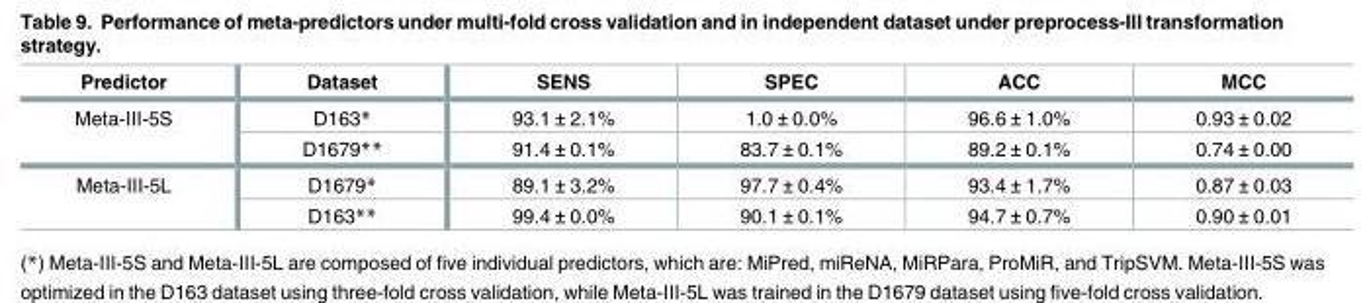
<table><thead><tr><td>Predictor</td><td>Dataset</td><td>SENS</td><td>SPEC</td><td>ACC</td><td>MCC</td></tr></thead><tbody><tr><td rowspan="2">Meta-III-5S</td><td>D163*</td><td>93.1 ± 2.1%</td><td>1.0 ± 0.0%</td><td>96.6 ± 1.0%</td><td>0.93 ± 0.02</td></tr><tr><td>D1679**</td><td>91.4 ± 0.1%</td><td>83.7 ± 0.1%</td><td>89.2 ± 0.1%</td><td>0.74 ± 0.00</td></tr><tr><td rowspan="2">Meta-III-5L</td><td>D1679*</td><td>89.1 ± 3.2%</td><td>97.7 ± 0.4%</td><td>93.4 ± 1.7%</td><td>0.87 ± 0.03</td></tr><tr><td>D163**</td><td>99.4 ± 0.0%</td><td>90.1 ± 0.1%</td><td>94.7 ± 0.7%</td><td>0.90 ± 0.01</td></tr></tbody></table>